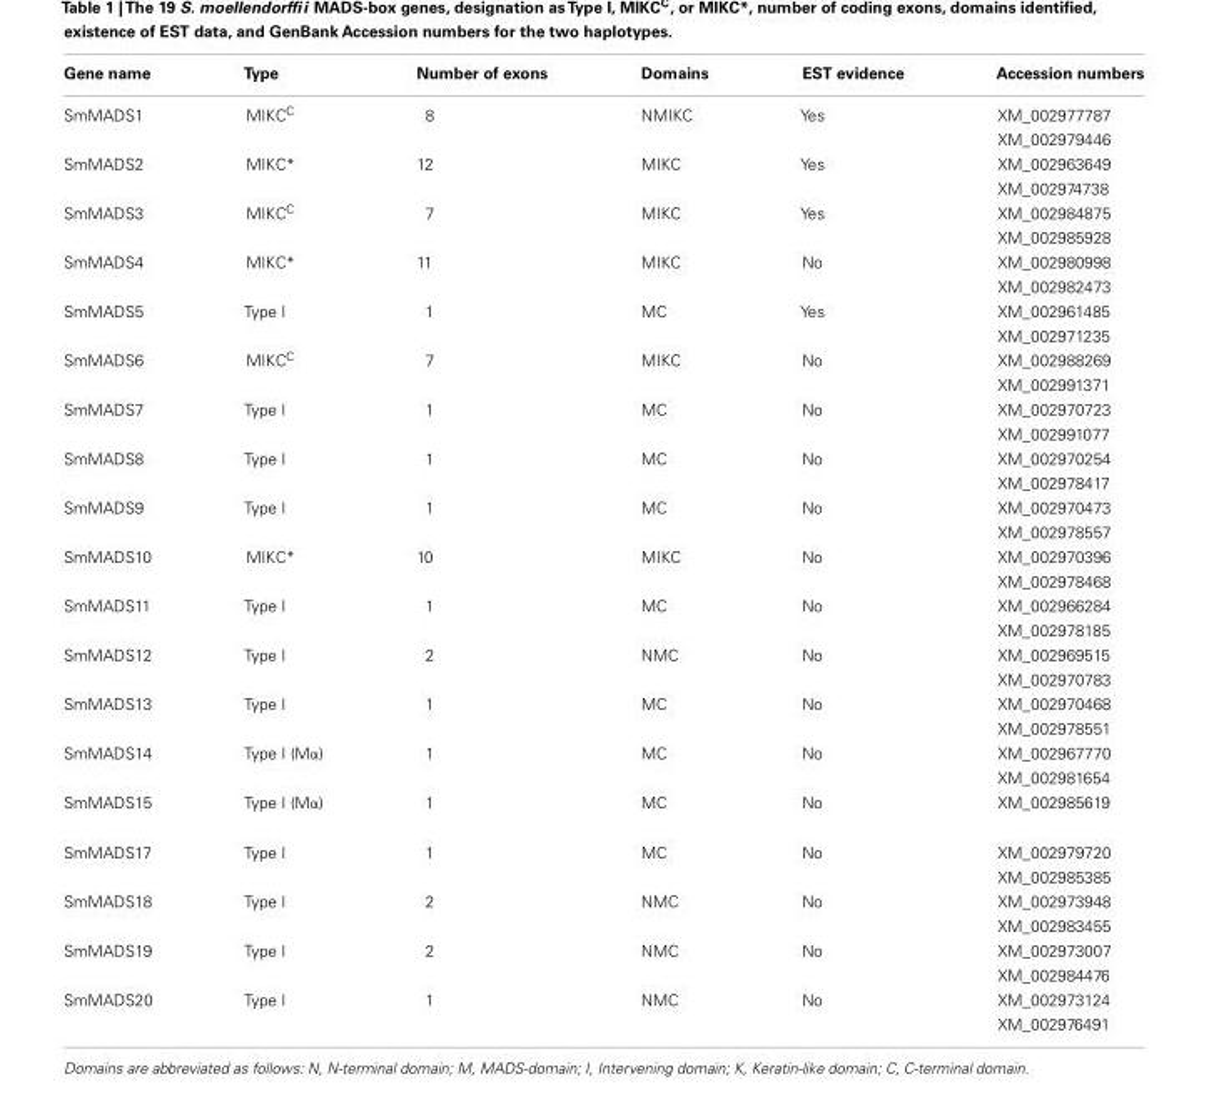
<table><thead><tr><td>Gene name</td><td>Type</td><td>Number of exons</td><td>Domains</td><td>EST evidence</td><td>Accession numbers</td></tr></thead><tbody><tr><td rowspan="2">SmMADS1</td><td>MIKC<sup>C</sup></td><td>8</td><td>NMIKC</td><td>Yes</td><td>XM_002977787</td></tr><tr><td></td><td></td><td></td><td></td><td>XM_002979446</td></tr><tr><td rowspan="2">SmMADS2</td><td>MIKC*</td><td>12</td><td>MIKC</td><td>Yes</td><td>XM_002963649</td></tr><tr><td></td><td></td><td></td><td></td><td>XM_002974738</td></tr><tr><td rowspan="2">SmMADS3</td><td>MIKC<sup>C</sup></td><td>7</td><td>MIKC</td><td>Yes</td><td>XM_002984875</td></tr><tr><td></td><td></td><td></td><td></td><td>XM_002985928</td></tr><tr><td rowspan="2">SmMADS4</td><td>MIKC*</td><td>11</td><td>MIKC</td><td>No</td><td>XM_002980998</td></tr><tr><td></td><td></td><td></td><td></td><td>XM_002982473</td></tr><tr><td rowspan="2">SmMADS5</td><td>Type I</td><td>1</td><td>MC</td><td>Yes</td><td>XM_002961485</td></tr><tr><td></td><td></td><td></td><td></td><td>XM_002971235</td></tr><tr><td rowspan="2">SmMADS6</td><td>MIKC<sup>C</sup></td><td>7</td><td>MIKC</td><td>No</td><td>XM_002988269</td></tr><tr><td></td><td></td><td></td><td></td><td>XM_002991371</td></tr><tr><td rowspan="2">SmMADS7</td><td>Type I</td><td>1</td><td>MC</td><td>No</td><td>XM_002970723</td></tr><tr><td></td><td></td><td></td><td></td><td>XM_002991077</td></tr><tr><td rowspan="2">SmMADS8</td><td>Type I</td><td>1</td><td>MC</td><td>No</td><td>XM_002970254</td></tr><tr><td></td><td></td><td></td><td></td><td>XM_002978417</td></tr><tr><td rowspan="2">SmMADS9</td><td>Type I</td><td>1</td><td>MC</td><td>No</td><td>XM_002970473</td></tr><tr><td></td><td></td><td></td><td></td><td>XM_002978557</td></tr><tr><td rowspan="2">SmMADS10</td><td>MIKC*</td><td>10</td><td>MIKC</td><td>No</td><td>XM_002970396</td></tr><tr><td></td><td></td><td></td><td></td><td>XM_002978468</td></tr><tr><td rowspan="2">SmMADS11</td><td>Type I</td><td>1</td><td>MC</td><td>No</td><td>XM_002966284</td></tr><tr><td></td><td></td><td></td><td></td><td>XM_002978185</td></tr><tr><td rowspan="2">SmMADS12</td><td>Type I</td><td>2</td><td>NMC</td><td>No</td><td>XM_002969515</td></tr><tr><td></td><td></td><td></td><td></td><td>XM_002970783</td></tr><tr><td rowspan="2">SmMADS13</td><td>Type I</td><td>1</td><td>MC</td><td>No</td><td>XM_002970468</td></tr><tr><td></td><td></td><td></td><td></td><td>XM_002978551</td></tr><tr><td rowspan="2">SmMADS14</td><td>Type I (Mα)</td><td>1</td><td>MC</td><td>No</td><td>XM_002967770</td></tr><tr><td></td><td></td><td></td><td></td><td>XM_002981654</td></tr><tr><td>SmMADS15</td><td>Type I (Mα)</td><td>1</td><td>MC</td><td>No</td><td>XM_002985619</td></tr><tr><td rowspan="2">SmMADS17</td><td>Type I</td><td>1</td><td>MC</td><td>No</td><td>XM_002979720</td></tr><tr><td></td><td></td><td></td><td></td><td>XM_002985385</td></tr><tr><td rowspan="2">SmMADS18</td><td>Type I</td><td>2</td><td>NMC</td><td>No</td><td>XM_002973948</td></tr><tr><td></td><td></td><td></td><td></td><td>XM_002983455</td></tr><tr><td rowspan="2">SmMADS19</td><td>Type I</td><td>2</td><td>NMC</td><td>No</td><td>XM_002973007</td></tr><tr><td></td><td></td><td></td><td></td><td>XM_002984476</td></tr><tr><td rowspan="2">SmMADS20</td><td>Type I</td><td>1</td><td>NMC</td><td>No</td><td>XM_002973124</td></tr><tr><td></td><td></td><td></td><td></td><td>XM_002976491</td></tr></tbody></table>